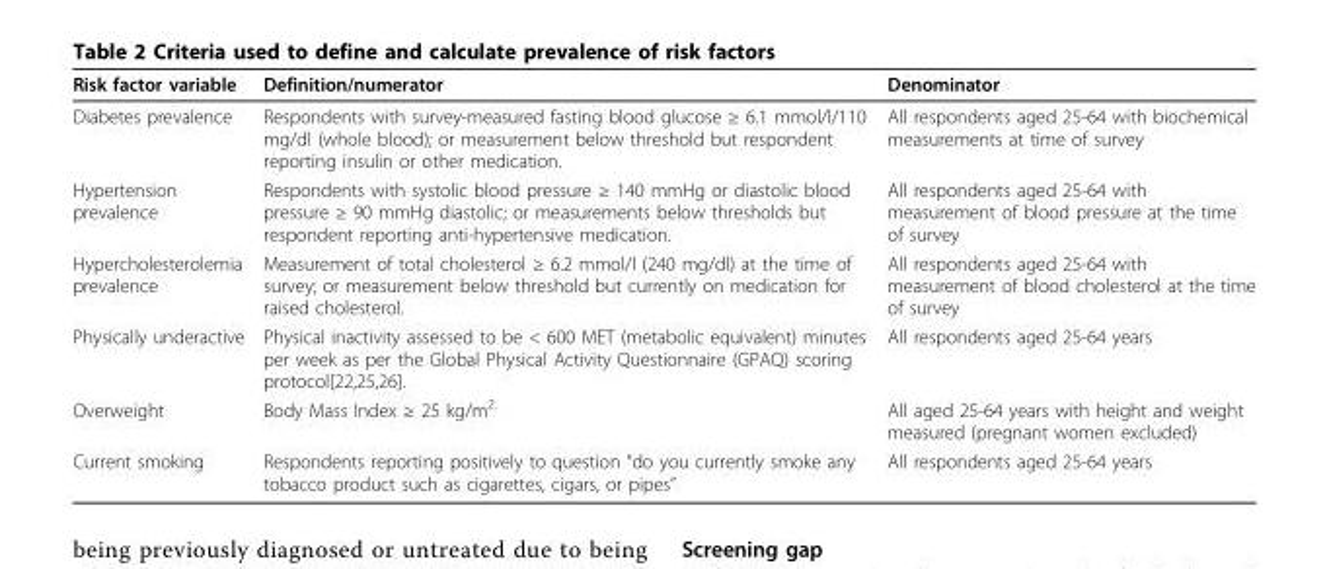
<table><thead><tr><td>Risk factor variable</td><td>Definition/numerator</td><td>Denominator</td></tr></thead><tbody><tr><td>Diabetes prevalence</td><td>Respondents with survey-measured fasting blood glucose ≥ 6.1 mmol/l/110 mg/dl (whole blood); or measurement below threshold but respondent reporting insulin or other medication.</td><td>All respondents aged 25-64 with biochemical measurements at time of survey</td></tr><tr><td>Hypertension prevalence</td><td>Respondents with systolic blood pressure ≥ 140 mmHg or diastolic blood pressure ≥ 90 mmHg diastolic; or measurements below thresholds but respondent reporting anti-hypertensive medication.</td><td>All respondents aged 25-64 with measurement of blood pressure at the time of survey</td></tr><tr><td>Hypercholesterolemia prevalence</td><td>Measurement of total cholesterol ≥ 6.2 mmol/l (240 mg/dl) at the time of survey; or measurement below threshold but currently on medication for raised cholesterol.</td><td>All respondents aged 25-64 with measurement of blood cholesterol at the time of survey</td></tr><tr><td>Physically underactive</td><td>Physical inactivity assessed to be &lt; 600 MET (metabolic equivalent) minutes per week as per the Global Physical Activity Questionnaire (GPAQ) scoring protocol[22,25,26].</td><td>All respondents aged 25-64 years</td></tr><tr><td>Overweight</td><td>Body Mass Index ≥ 25 kg/m<sup>2.</sup></td><td>All aged 25-64 years with height and weight measured (pregnant women excluded)</td></tr><tr><td>Current smoking</td><td>Respondents reporting positively to question “do you currently smoke any tobacco product such as cigarettes, cigars, or pipes”</td><td>All respondents aged 25-64 years</td></tr></tbody></table>